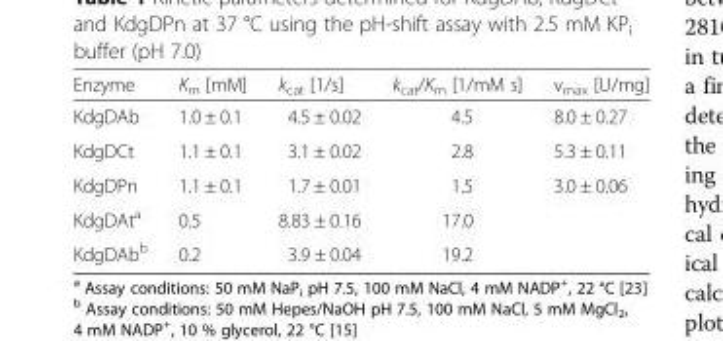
<table><thead><tr><td>Enzyme</td><td>K<sub>m</sub> [mM]</td><td>k<sub>cat</sub> [1/s]</td><td>k<sub>cat</sub>/K<sub>m</sub> [1/mM s]</td><td>v<sub>max</sub> [U/mg]</td></tr></thead><tbody><tr><td>KdgDAb</td><td>1.0 ± 0.1</td><td>4.5 ± 0.02</td><td>4.5</td><td>8.0 ± 0.27</td></tr><tr><td>KdgDCt</td><td>1.1 ± 0.1</td><td>3.1 ± 0.02</td><td>2.8</td><td>5.3 ± 0.11</td></tr><tr><td>KdgDPn</td><td>1.1 ± 0.1</td><td>1.7 ± 0.01</td><td>1.5</td><td>3.0 ± 0.06</td></tr><tr><td>KdgDAt<sup>a</sup></td><td>0.5</td><td>8.83 ± 0.16</td><td>17.0</td><td></td></tr><tr><td>KdgDAb<sup>b</sup></td><td>0.2</td><td>3.9 ± 0.04</td><td>19.2</td><td></td></tr></tbody></table>